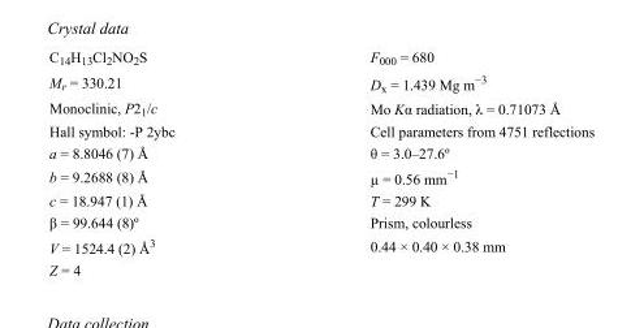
<table><tbody><tr><td>C<sub>14</sub>H<sub>13</sub>Cl<sub>2</sub>NO<sub>2</sub>S</td><td>F000 = 680</td></tr><tr><td>M<sub>r</sub> = 330.21</td><td>D<sub>x</sub> = 1.439 Mg m<sup>−3</sup></td></tr><tr><td>Monoclinic, P2<sub>1</sub>/c</td><td>Mo Kα radiation, λ = 0.71073 Å</td></tr><tr><td>Hall symbol: -P 2ybc</td><td>Cell parameters from 4751 reflections</td></tr><tr><td>a = 8.8046 (7) Å</td><td>θ = 3.0–27.6º</td></tr><tr><td>b = 9.2688 (8) Å</td><td>µ = 0.56 mm<sup>−1</sup></td></tr><tr><td>c = 18.947 (1) Å</td><td>T = 299 K</td></tr><tr><td>β = 99.644 (8)º</td><td>Prism, colourless</td></tr><tr><td>V = 1524.4 (2) Å<sup>3</sup></td><td>0.44 × 0.40 × 0.38 mm</td></tr><tr><td>Z = 4</td><td></td></tr></tbody></table>